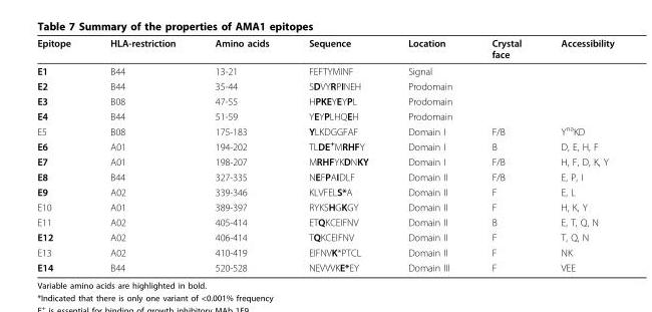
<table><thead><tr><td>Epitope</td><td>HLA-restriction</td><td>Amino acids</td><td>Sequence</td><td>Location</td><td>Crystal face</td><td>Accessibility</td></tr></thead><tbody><tr><td>E1</td><td>B44</td><td>13-21</td><td>FEFTYMINF</td><td>Signal</td><td></td><td></td></tr><tr><td>E2</td><td>B44</td><td>35-44</td><td>SDVYRPINEH</td><td>Prodomain</td><td></td><td></td></tr><tr><td>E3</td><td>B08</td><td>47-55</td><td>HPKEYEYPL</td><td>Prodomain</td><td></td><td></td></tr><tr><td>E4</td><td>B44</td><td>51-59</td><td>YEYPLHQEH</td><td>Prodomain</td><td></td><td></td></tr><tr><td>E5</td><td>B08</td><td>175-183</td><td>YLKDGGFAF</td><td>Domain I</td><td>F/B</td><td>Y<sup>na</sup>KD</td></tr><tr><td>E6</td><td>A01</td><td>194-202</td><td>TLDE<sup>+</sup>MRHFY</td><td>Domain I</td><td>B</td><td>D, E, H, F</td></tr><tr><td>E7</td><td>A01</td><td>198-207</td><td>MRHFYKDNKY</td><td>Domain I</td><td>F/B</td><td>H, F, D, K, Y</td></tr><tr><td>E8</td><td>B44</td><td>327-335</td><td>NEFPAIDLF</td><td>Domain II</td><td>F/B</td><td>E, P, I</td></tr><tr><td>E9</td><td>A02</td><td>339-346</td><td>KLVFELS*A</td><td>Domain II</td><td>F</td><td>E, L</td></tr><tr><td>E10</td><td>A01</td><td>389-397</td><td>RYKSHGKGY</td><td>Domain II</td><td>F</td><td>H, K, Y</td></tr><tr><td>E11</td><td>A02</td><td>405-414</td><td>ETQKCEIFNV</td><td>Domain II</td><td>B</td><td>E, T, Q, N</td></tr><tr><td>E12</td><td>A02</td><td>406-414</td><td>TQKCEIFNV</td><td>Domain II</td><td>F</td><td>T, Q, N</td></tr><tr><td>E13</td><td>A02</td><td>410-419</td><td>EIFNVK*PTCL</td><td>Domain II</td><td>F</td><td>NK</td></tr><tr><td>E14</td><td>B44</td><td>520-528</td><td>NEVVVKE*EY</td><td>Domain III</td><td>F</td><td>VEE</td></tr></tbody></table>